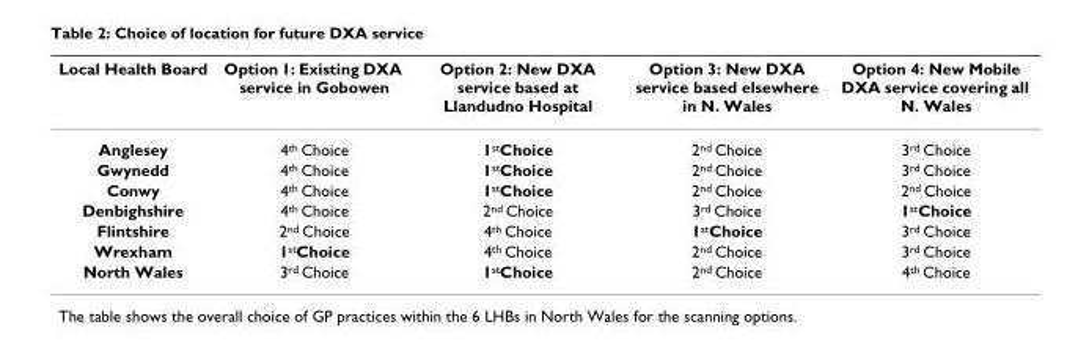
<table><thead><tr><td>Local Health Board</td><td>Option 1: Existing DXA service in Gobowen</td><td>Option 2: New DXA service based at Llandudno Hospital</td><td>Option 3: New DXA service based elsewhere in N. Wales</td><td>Option 4: New Mobile DXA service covering all N. Wales</td></tr></thead><tbody><tr><td>Anglesey</td><td>4<sup>th</sup> Choice</td><td>1<sup>st</sup>Choice</td><td>2<sup>nd</sup> Choice</td><td>3<sup>rd</sup> Choice</td></tr><tr><td>Gwynedd</td><td>4<sup>th</sup> Choice</td><td>1<sup>st</sup>Choice</td><td>2<sup>nd</sup> Choice</td><td>3<sup>rd</sup> Choice</td></tr><tr><td>Conwy</td><td>4<sup>th</sup> Choice</td><td>1<sup>st</sup>Choice</td><td>2<sup>nd</sup> Choice</td><td>2<sup>nd</sup> Choice</td></tr><tr><td>Denbighshire</td><td>4<sup>th</sup> Choice</td><td>2<sup>nd</sup> Choice</td><td>3<sup>rd</sup> Choice</td><td>1<sup>st</sup>Choice</td></tr><tr><td>Flintshire</td><td>2<sup>nd</sup> Choice</td><td>4<sup>th</sup> Choice</td><td>1<sup>st</sup>Choice</td><td>3<sup>rd</sup> Choice</td></tr><tr><td>Wrexham</td><td>1<sup>st</sup>Choice</td><td>4<sup>th</sup> Choice</td><td>2<sup>nd</sup> Choice</td><td>3<sup>rd</sup> Choice</td></tr><tr><td>North Wales</td><td>3<sup>rd</sup> Choice</td><td>1<sup>st</sup>Choice</td><td>2<sup>nd</sup> Choice</td><td>4<sup>th</sup> Choice</td></tr></tbody></table>